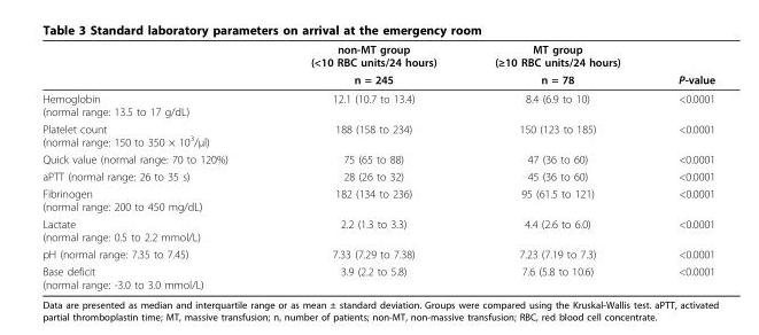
<table><thead><tr><td rowspan="2"></td><td rowspan="2">non-MT group (&lt;10 RBC units/24 hours) n = 245</td><td rowspan="2">MT group (≥10 RBC units/24 hours) n = 78</td><td rowspan="2">P-value</td></tr><tr></tr></thead><tbody><tr><td>Hemoglobin (normal range: 13.5 to 17 g/dL)</td><td>12.1 (10.7 to 13.4)</td><td>8.4 (6.9 to 10)</td><td>&lt;0.0001</td></tr><tr><td>Platelet count (normal range: 150 to 350 × 10<sup>3</sup>/μl)</td><td>188 (158 to 234)</td><td>150 (123 to 185)</td><td>&lt;0.0001</td></tr><tr><td>Quick value (normal range: 70 to 120%)</td><td>75 (65 to 88)</td><td>47 (36 to 60)</td><td>&lt;0.0001</td></tr><tr><td>aPTT (normal range: 26 to 35 s)</td><td>28 (26 to 32)</td><td>45 (36 to 60)</td><td>&lt;0.0001</td></tr><tr><td>Fibrinogen (normal range: 200 to 450 mg/dL)</td><td>182 (134 to 236)</td><td>95 (61.5 to 121)</td><td>&lt;0.0001</td></tr><tr><td>Lactate (normal range: 0.5 to 2.2 mmol/L)</td><td>2.2 (1.3 to 3.3)</td><td>4.4 (2.6 to 6.0)</td><td>&lt;0.0001</td></tr><tr><td>pH (normal range: 7.35 to 7.45)</td><td>7.33 (7.29 to 7.38)</td><td>7.23 (7.19 to 7.3)</td><td>&lt;0.0001</td></tr><tr><td>Base deficit (normal range: -3.0 to 3.0 mmol/L)</td><td>3.9 (2.2 to 5.8)</td><td>7.6 (5.8 to 10.6)</td><td>&lt;0.0001</td></tr></tbody></table>